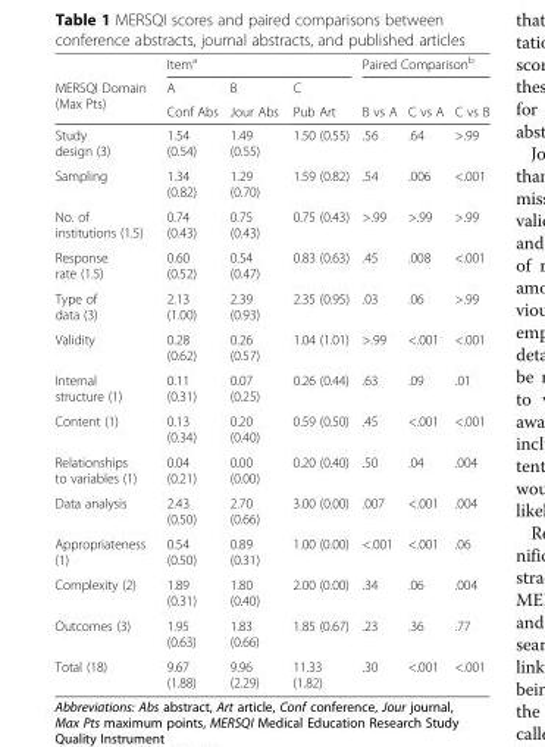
<table><thead><tr><td rowspan="3">MERSQI Domain (Max Pts)</td><td colspan="3">Item<sup>a</sup></td><td colspan="3">Paired Comparison<sup>b</sup></td></tr><tr><td rowspan="2">A Conf Abs</td><td rowspan="2">B Jour Abs</td><td rowspan="2">C Pub Art</td><td rowspan="2">B vs A</td><td rowspan="2">C vs A</td><td rowspan="2">C vs B</td></tr><tr></tr></thead><tbody><tr><td>Study design (3)</td><td>1.54 (0.54)</td><td>1.49 (0.55)</td><td>1.50 (0.55)</td><td>.56</td><td>.64</td><td>&gt;.99</td></tr><tr><td>Sampling</td><td>1.34 (0.82)</td><td>1.29 (0.70)</td><td>1.59 (0.82)</td><td>.54</td><td>.006</td><td>&lt;.001</td></tr><tr><td>No. of institutions (1.5)</td><td>0.74 (0.43)</td><td>0.75 (0.43)</td><td>0.75 (0.43)</td><td>&gt;.99</td><td>&gt;.99</td><td>&gt;.99</td></tr><tr><td>Response rate (1.5)</td><td>0.60 (0.52)</td><td>0.54 (0.47)</td><td>0.83 (0.63)</td><td>.45</td><td>.008</td><td>&lt;.001</td></tr><tr><td>Type of data (3)</td><td>2.13 (1.00)</td><td>2.39 (0.93)</td><td>2.35 (0.95)</td><td>.03</td><td>.06</td><td>&gt;.99</td></tr><tr><td>Validity</td><td>0.28 (0.62)</td><td>0.26 (0.57)</td><td>1.04 (1.01)</td><td>&gt;.99</td><td>&lt;.001</td><td>&lt;.001</td></tr><tr><td>Internal structure (1)</td><td>0.11 (0.31)</td><td>0.07 (0.25)</td><td>0.26 (0.44)</td><td>.63</td><td>.09</td><td>.01</td></tr><tr><td>Content (1)</td><td>0.13 (0.34)</td><td>0.20 (0.40)</td><td>0.59 (0.50)</td><td>.45</td><td>&lt;.001</td><td>&lt;.001</td></tr><tr><td>Relationships to variables (1)</td><td>0.04 (0.21)</td><td>0.00 (0.00)</td><td>0.20 (0.40)</td><td>.50</td><td>.04</td><td>.004</td></tr><tr><td>Data analysis</td><td>2.43 (0.50)</td><td>2.70 (0.66)</td><td>3.00 (0.00)</td><td>.007</td><td>&lt;.001</td><td>.004</td></tr><tr><td>Appropriateness (1)</td><td>0.54 (0.50)</td><td>0.89 (0.31)</td><td>1.00 (0.00)</td><td>&lt;.001</td><td>&lt;.001</td><td>.06</td></tr><tr><td>Complexity (2)</td><td>1.89 (0.31)</td><td>1.80 (0.40)</td><td>2.00 (0.00)</td><td>.34</td><td>.06</td><td>.004</td></tr><tr><td>Outcomes (3)</td><td>1.95 (0.63)</td><td>1.83 (0.66)</td><td>1.85 (0.67)</td><td>.23</td><td>.36</td><td>.77</td></tr><tr><td>Total (18)</td><td>9.67 (1.88)</td><td>9.96 (2.29)</td><td>11.33 (1.82)</td><td>.30</td><td>&lt;.001</td><td>&lt;.001</td></tr></tbody></table>